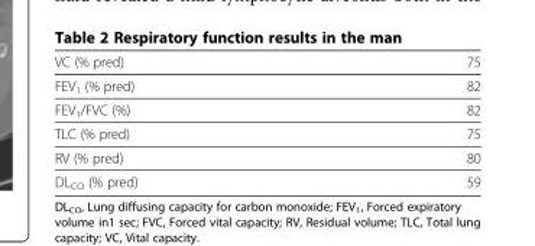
<table><tbody><tr><td>VC (% pred)</td><td>75</td></tr><tr><td>FEV<sub>1</sub> (% pred)</td><td>82</td></tr><tr><td>FEV<sub>1</sub>/FVC (%)</td><td>82</td></tr><tr><td>TLC (% pred)</td><td>75</td></tr><tr><td>RV (% pred)</td><td>80</td></tr><tr><td>DL<sub>CO</sub> (% pred)</td><td>59</td></tr></tbody></table>